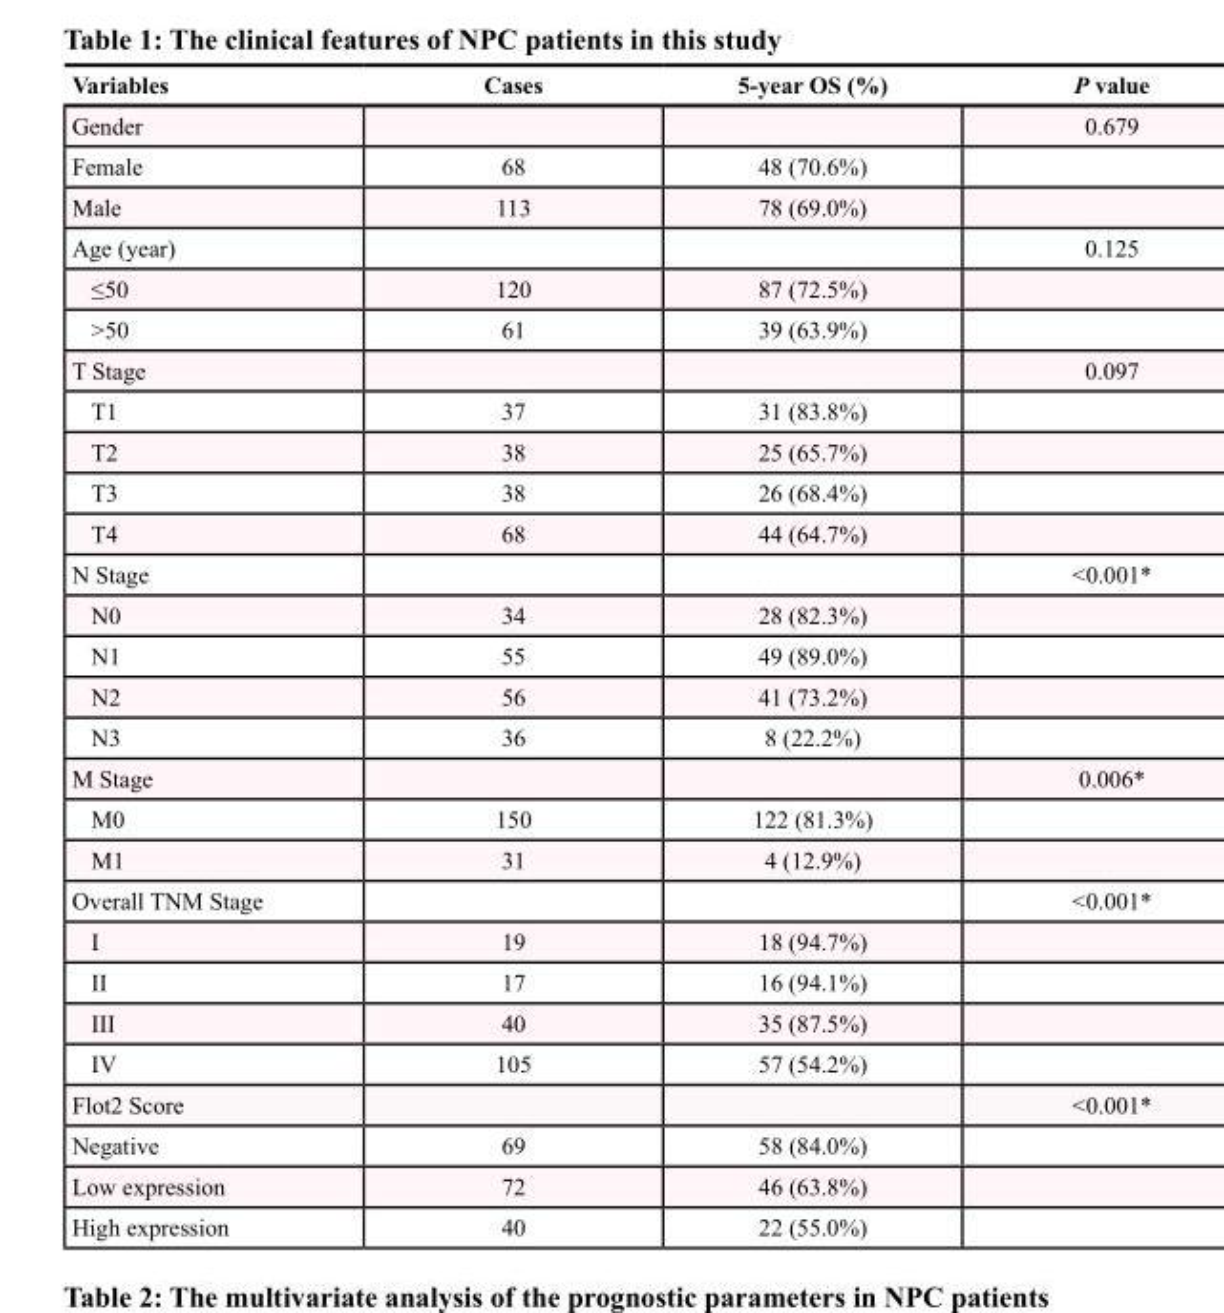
<table><thead><tr><td>Variables</td><td>Cases</td><td>5-year OS (%)</td><td>P value</td></tr></thead><tbody><tr><td>Gender</td><td></td><td></td><td>0.679</td></tr><tr><td>Female</td><td>68</td><td>48 (70.6%)</td><td></td></tr><tr><td>Male</td><td>113</td><td>78 (69.0%)</td><td></td></tr><tr><td>Age (year)</td><td></td><td></td><td>0.125</td></tr><tr><td>≤50</td><td>120</td><td>87 (72.5%)</td><td></td></tr><tr><td>&gt;50</td><td>61</td><td>39 (63.9%)</td><td></td></tr><tr><td>T Stage</td><td></td><td></td><td>0.097</td></tr><tr><td>T1</td><td>37</td><td>31 (83.8%)</td><td></td></tr><tr><td>T2</td><td>38</td><td>25 (65.7%)</td><td></td></tr><tr><td>T3</td><td>38</td><td>26 (68.4%)</td><td></td></tr><tr><td>T4</td><td>68</td><td>44 (64.7%)</td><td></td></tr><tr><td>N Stage</td><td></td><td></td><td>&lt;0.001*</td></tr><tr><td>N0</td><td>34</td><td>28 (82.3%)</td><td></td></tr><tr><td>N1</td><td>55</td><td>49 (89.0%)</td><td></td></tr><tr><td>N2</td><td>56</td><td>41 (73.2%)</td><td></td></tr><tr><td>N3</td><td>36</td><td>8 (22.2%)</td><td></td></tr><tr><td>M Stage</td><td></td><td></td><td>0.006*</td></tr><tr><td>M0</td><td>150</td><td>122 (81.3%)</td><td></td></tr><tr><td>M1</td><td>31</td><td>4 (12.9%)</td><td></td></tr><tr><td>Overall TNM Stage</td><td></td><td></td><td>&lt;0.001*</td></tr><tr><td>I</td><td>19</td><td>18 (94.7%)</td><td></td></tr><tr><td>II</td><td>17</td><td>16 (94.1%)</td><td></td></tr><tr><td>III</td><td>40</td><td>35 (87.5%)</td><td></td></tr><tr><td>IV</td><td>105</td><td>57 (54.2%)</td><td></td></tr><tr><td>Flot2 Score</td><td></td><td></td><td>&lt;0.001*</td></tr><tr><td>Negative</td><td>69</td><td>58 (84.0%)</td><td></td></tr><tr><td>Low expression</td><td>72</td><td>46 (63.8%)</td><td></td></tr><tr><td>High expression</td><td>40</td><td>22 (55.0%)</td><td></td></tr></tbody></table>